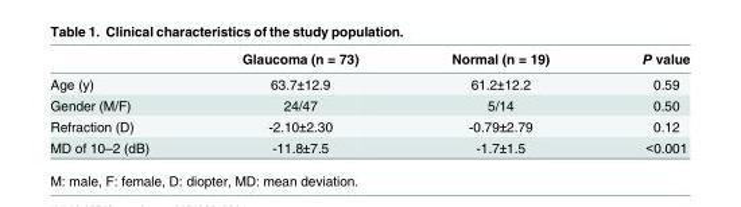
<table><thead><tr><td></td><td>Glaucoma (n = 73)</td><td>Normal (n = 19)</td><td>P value</td></tr></thead><tbody><tr><td>Age (y)</td><td>63.7±12.9</td><td>61.2±12.2</td><td>0.59</td></tr><tr><td>Gender (M/F)</td><td>24/47</td><td>5/14</td><td>0.50</td></tr><tr><td>Refraction (D)</td><td>-2.10±2.30</td><td>-0.79±2.79</td><td>0.12</td></tr><tr><td>MD of 10–2 (dB)</td><td>-11.8±7.5</td><td>-1.7±1.5</td><td>&lt;0.001</td></tr></tbody></table>